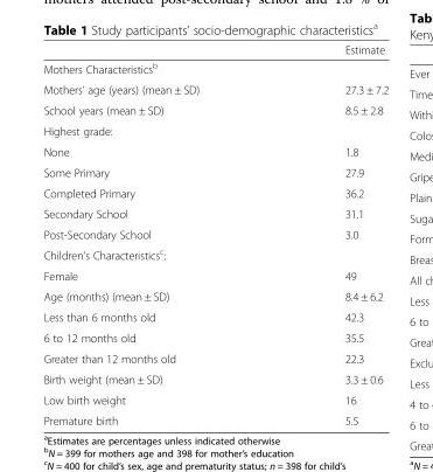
<table><thead><tr><td></td><td>Estimate</td></tr></thead><tbody><tr><td colspan="2">Mothers Characteristics<sup>b</sup></td></tr><tr><td>Mothers’ age (years) (mean ± SD)</td><td>27.3 ± 7.2</td></tr><tr><td>School years (mean ± SD)</td><td>8.5 ± 2.8</td></tr><tr><td colspan="2">Highest grade:</td></tr><tr><td>None</td><td>1.8</td></tr><tr><td>Some Primary</td><td>27.9</td></tr><tr><td>Completed Primary</td><td>36.2</td></tr><tr><td>Secondary School</td><td>31.1</td></tr><tr><td>Post-Secondary School</td><td>3.0</td></tr><tr><td colspan="2">Children’s Characteristics<sup>c</sup>:</td></tr><tr><td>Female</td><td>49</td></tr><tr><td>Age (months) (mean ± SD)</td><td>8.4 ± 6.2</td></tr><tr><td>Less than 6 months old</td><td>42.3</td></tr><tr><td>6 to 12 months old</td><td>35.5</td></tr><tr><td>Greater than 12 months old</td><td>22.3</td></tr><tr><td>Birth weight (mean ± SD)</td><td>3.3 ± 0.6</td></tr><tr><td>Low birth weight</td><td>16</td></tr><tr><td>Premature birth</td><td>5.5</td></tr></tbody></table>